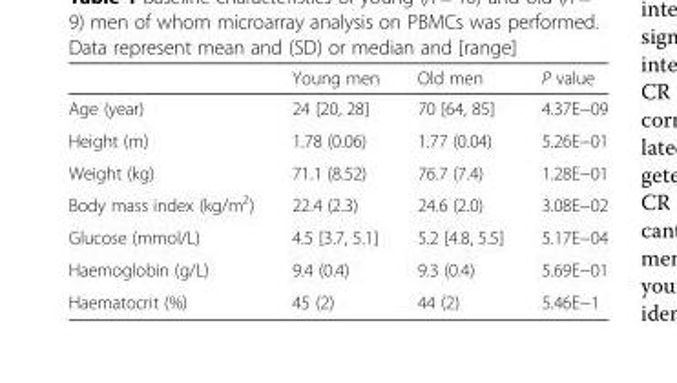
<table><thead><tr><td></td><td>Young men</td><td>Old men</td><td>P value</td></tr></thead><tbody><tr><td>Age (year)</td><td>24 [20, 28]</td><td>70 [64, 85]</td><td>4.37E−09</td></tr><tr><td>Height (m)</td><td>1.78 (0.06)</td><td>1.77 (0.04)</td><td>5.26E−01</td></tr><tr><td>Weight (kg)</td><td>71.1 (8.52)</td><td>76.7 (7.4)</td><td>1.28E−01</td></tr><tr><td>Body mass index (kg/m<sup>2</sup>)</td><td>22.4 (2.3)</td><td>24.6 (2.0)</td><td>3.08E−02</td></tr><tr><td>Glucose (mmol/L)</td><td>4.5 [3.7, 5.1]</td><td>5.2 [4.8, 5.5]</td><td>5.17E−04</td></tr><tr><td>Haemoglobin (g/L)</td><td>9.4 (0.4)</td><td>9.3 (0.4)</td><td>5.69E−01</td></tr><tr><td>Haematocrit (%)</td><td>45 (2)</td><td>44 (2)</td><td>5.46E−1</td></tr></tbody></table>